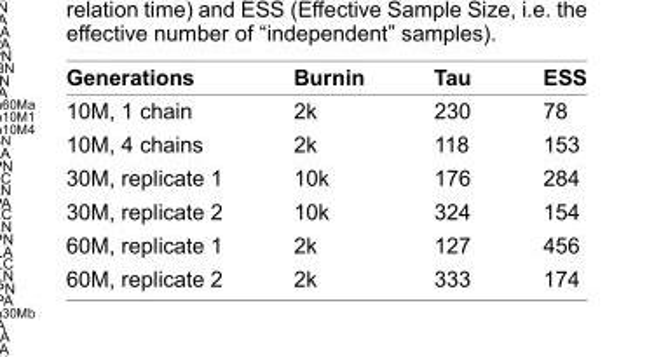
<table><thead><tr><td>Generations</td><td>Burnin</td><td>Tau</td><td>ESS</td></tr></thead><tbody><tr><td>10M, 1 chain</td><td>2k</td><td>230</td><td>78</td></tr><tr><td>10M, 4 chains</td><td>2k</td><td>118</td><td>153</td></tr><tr><td>30M, replicate 1</td><td>10k</td><td>176</td><td>284</td></tr><tr><td>30M, replicate 2</td><td>10k</td><td>324</td><td>154</td></tr><tr><td>60M, replicate 1</td><td>2k</td><td>127</td><td>456</td></tr><tr><td>60M, replicate 2</td><td>2k</td><td>333</td><td>174</td></tr></tbody></table>